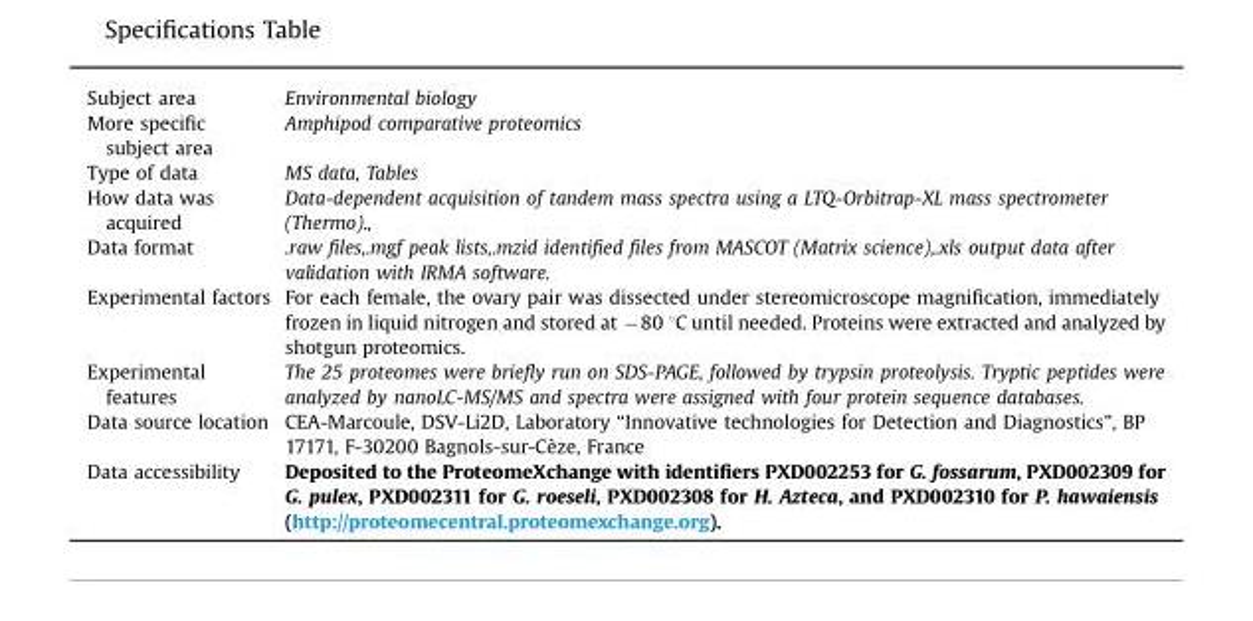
<table><tbody><tr><td>Subject area</td><td>Environmental biology</td></tr><tr><td>More specific subject area</td><td>Amphipod comparative proteomics</td></tr><tr><td>Type of data</td><td>MS data, Tables</td></tr><tr><td>How data was acquired</td><td>Data-dependent acquisition of tandem mass spectra using a LTQ-Orbitrap-XL mass spectrometer (Thermo).,</td></tr><tr><td>Data format</td><td>.raw files,.mgf peak lists,.mzid identified files from MASCOT (Matrix science),.xls output data after validation with IRMA software.</td></tr><tr><td>Experimental factors</td><td>For each female, the ovary pair was dissected under stereomicroscope magnification, immediately frozen in liquid nitrogen and stored at −80 °C until needed. Proteins were extracted and analyzed by shotgun proteomics.</td></tr><tr><td>Experimental features</td><td>The 25 proteomes were briefly run on SDS-PAGE, followed by trypsin proteolysis. Tryptic peptides were analyzed by nanoLC-MS/MS and spectra were assigned with four protein sequence databases.</td></tr><tr><td>Data source location</td><td>CEA-Marcoule, DSV-Li2D, Laboratory “Innovative technologies for Detection and Diagnostics”, BP 17171, F-30200 Bagnols-sur-Cèze, France</td></tr><tr><td>Data accessibility</td><td>Deposited to the ProteomeXchange with identifiers PXD002253 for G. fossarum, PXD002309 for G. pulex, PXD002311 for G. roeseli, PXD002308 for H. Azteca, and PXD002310 for P. hawaiensis (http://proteomecentral.proteomexchange.org).</td></tr></tbody></table>